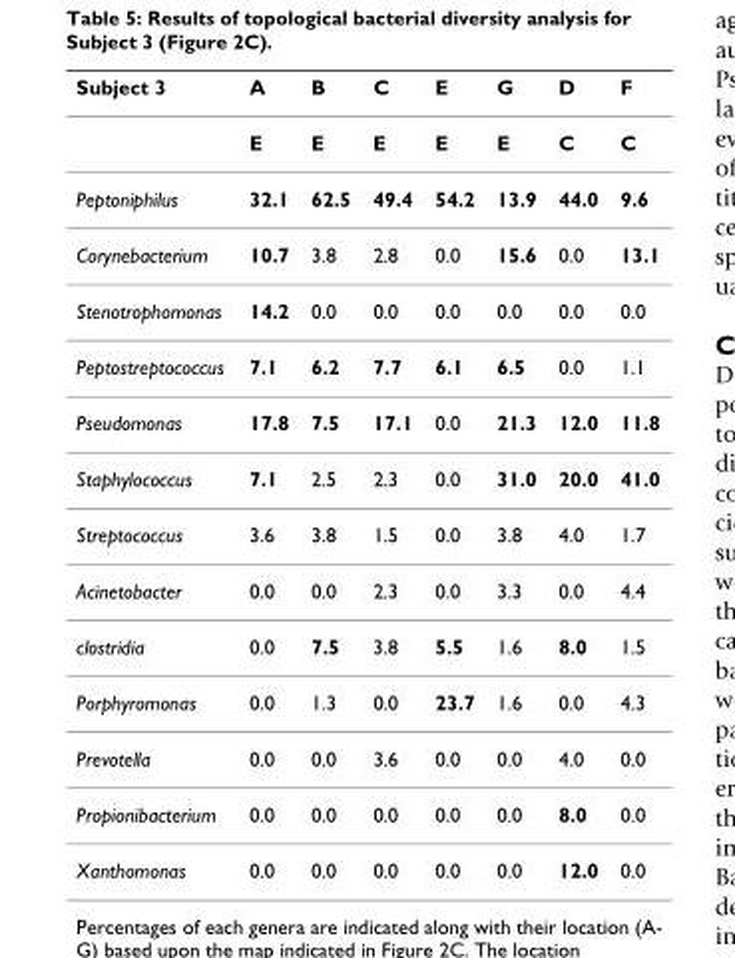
<table><thead><tr><td>Subject 3</td><td>A</td><td>B</td><td>C</td><td>E</td><td>G</td><td>D</td><td>F</td></tr></thead><tbody><tr><td></td><td>E</td><td>E</td><td>E</td><td>E</td><td>E</td><td>C</td><td>C</td></tr><tr><td>Peptoniphilus</td><td>32.1</td><td>62.5</td><td>49.4</td><td>54.2</td><td>13.9</td><td>44.0</td><td>9.6</td></tr><tr><td>Corynebacterium</td><td>10.7</td><td>3.8</td><td>2.8</td><td>0.0</td><td>15.6</td><td>0.0</td><td>13.1</td></tr><tr><td>Stenotrophomonas</td><td>14.2</td><td>0.0</td><td>0.0</td><td>0.0</td><td>0.0</td><td>0.0</td><td>0.0</td></tr><tr><td>Peptostreptococcus</td><td>7.1</td><td>6.2</td><td>7.7</td><td>6.1</td><td>6.5</td><td>0.0</td><td>1.1</td></tr><tr><td>Pseudomonas</td><td>17.8</td><td>7.5</td><td>17.1</td><td>0.0</td><td>21.3</td><td>12.0</td><td>11.8</td></tr><tr><td>Staphylococcus</td><td>7.1</td><td>2.5</td><td>2.3</td><td>0.0</td><td>31.0</td><td>20.0</td><td>41.0</td></tr><tr><td>Streptococcus</td><td>3.6</td><td>3.8</td><td>1.5</td><td>0.0</td><td>3.8</td><td>4.0</td><td>1.7</td></tr><tr><td>Acinetobacter</td><td>0.0</td><td>0.0</td><td>2.3</td><td>0.0</td><td>3.3</td><td>0.0</td><td>4.4</td></tr><tr><td>clostridia</td><td>0.0</td><td>7.5</td><td>3.8</td><td>5.5</td><td>1.6</td><td>8.0</td><td>1.5</td></tr><tr><td>Porphyromonas</td><td>0.0</td><td>1.3</td><td>0.0</td><td>23.7</td><td>1.6</td><td>0.0</td><td>4.3</td></tr><tr><td>Prevotella</td><td>0.0</td><td>0.0</td><td>3.6</td><td>0.0</td><td>0.0</td><td>4.0</td><td>0.0</td></tr><tr><td>Propionibacterium</td><td>0.0</td><td>0.0</td><td>0.0</td><td>0.0</td><td>0.0</td><td>8.0</td><td>0.0</td></tr><tr><td>Xanthomonas</td><td>0.0</td><td>0.0</td><td>0.0</td><td>0.0</td><td>0.0</td><td>12.0</td><td>0.0</td></tr></tbody></table>